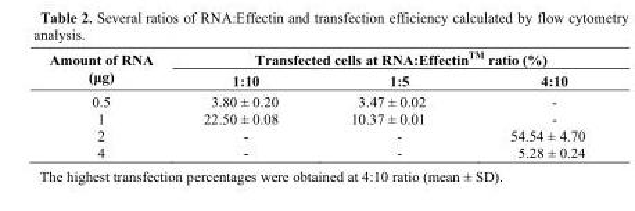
<table><thead><tr><td rowspan="2">Amount of RNA (μg)</td><td colspan="3">Transfected cells at RNA:Effectin<sup>TM</sup> ratio (%)</td></tr><tr><td>1:10</td><td>1:5</td><td>4:10</td></tr></thead><tbody><tr><td>0.5</td><td>3.80 ± 0.20</td><td>3.47 ± 0.02</td><td>-</td></tr><tr><td>1</td><td>22.50 ± 0.08</td><td>10.37 ± 0.01</td><td>-</td></tr><tr><td>2</td><td>-</td><td>-</td><td>54.54 ± 4.70</td></tr><tr><td>4</td><td>-</td><td>-</td><td>5.28 ± 0.24</td></tr></tbody></table>